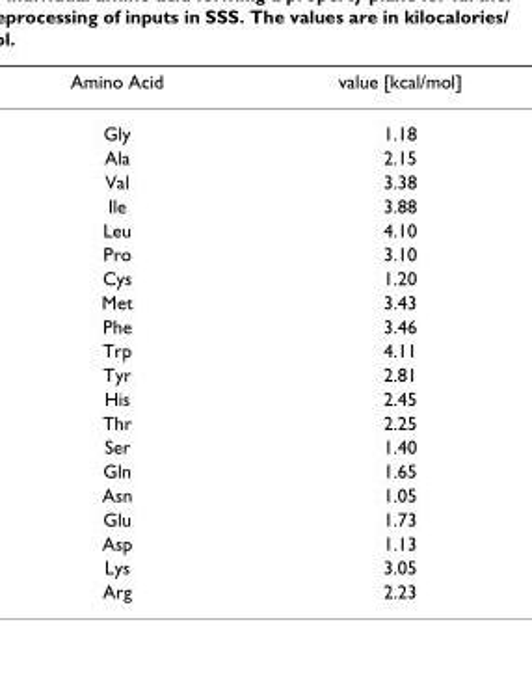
<table><thead><tr><td>Amino Acid</td><td>value [kcal/mol]</td></tr></thead><tbody><tr><td>Gly</td><td>1.18</td></tr><tr><td>Ala</td><td>2.15</td></tr><tr><td>Val</td><td>3.38</td></tr><tr><td>Ile</td><td>3.88</td></tr><tr><td>Leu</td><td>4.10</td></tr><tr><td>Pro</td><td>3.10</td></tr><tr><td>Cys</td><td>1.20</td></tr><tr><td>Met</td><td>3.43</td></tr><tr><td>Phe</td><td>3.46</td></tr><tr><td>Trp</td><td>4.11</td></tr><tr><td>Tyr</td><td>2.81</td></tr><tr><td>His</td><td>2.45</td></tr><tr><td>Thr</td><td>2.25</td></tr><tr><td>Ser</td><td>1.40</td></tr><tr><td>Gln</td><td>1.65</td></tr><tr><td>Asn</td><td>1.05</td></tr><tr><td>Glu</td><td>1.73</td></tr><tr><td>Asp</td><td>1.13</td></tr><tr><td>Lys</td><td>3.05</td></tr><tr><td>Arg</td><td>2.23</td></tr></tbody></table>